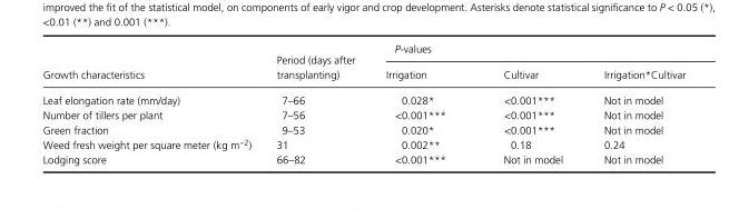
<table><thead><tr><td rowspan="2">Growth characteristics</td><td rowspan="2">Period (days after transplanting)</td><td colspan="3">P - values</td></tr><tr><td>Irrigation</td><td>Cultivar</td><td>Irrigation*Cultivar</td></tr></thead><tbody><tr><td>Leaf elongation rate (mm/day)</td><td>7–66</td><td>0.028*</td><td>&lt;0.001***</td><td>Not in model</td></tr><tr><td>Number of tillers per plant</td><td>7–56</td><td>&lt;0.001***</td><td>&lt;0.001***</td><td>Not in model</td></tr><tr><td>Green fraction</td><td>9–53</td><td>0.020*</td><td>&lt;0.001***</td><td>Not in model</td></tr><tr><td>Weed fresh weight per square meter (kg m <sup>−2</sup> )</td><td>31</td><td>0.002**</td><td>0.18</td><td>0.24</td></tr><tr><td>Lodging score</td><td>66–82</td><td>&lt;0.001***</td><td>Not in model</td><td>Not in model</td></tr></tbody></table>